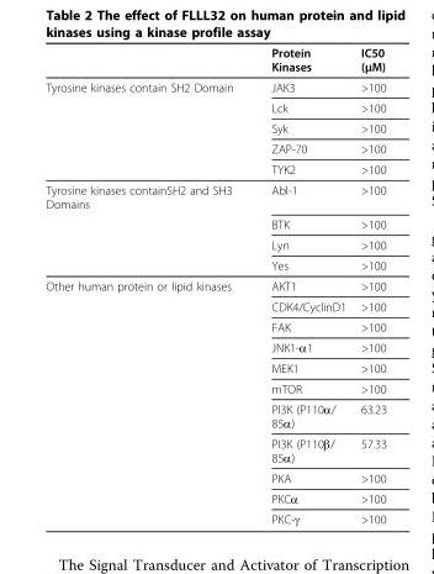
<table><thead><tr><td></td><td>Protein Kinases</td><td>IC50 (μM)</td></tr></thead><tbody><tr><td rowspan="5">Tyrosine kinases contain SH2 Domain</td><td>JAK3</td><td>&gt;100</td></tr><tr><td>Lck</td><td>&gt;100</td></tr><tr><td>Syk</td><td>&gt;100</td></tr><tr><td>ZAP-70</td><td>&gt;100</td></tr><tr><td>TYK2</td><td>&gt;100</td></tr><tr><td rowspan="4">Tyrosine kinases containSH2 and SH3 Domains</td><td>Abl-1</td><td>&gt;100</td></tr><tr><td>BTK</td><td>&gt;100</td></tr><tr><td>Lyn</td><td>&gt;100</td></tr><tr><td>Yes</td><td>&gt;100</td></tr><tr><td rowspan="11">Other human protein or lipid kinases</td><td>AKT1</td><td>&gt;100</td></tr><tr><td>CDK4/CyclinD1</td><td>&gt;100</td></tr><tr><td>FAK</td><td>&gt;100</td></tr><tr><td>JNK1-α1</td><td>&gt;100</td></tr><tr><td>MEK1</td><td>&gt;100</td></tr><tr><td>mTOR</td><td>&gt;100</td></tr><tr><td>PI3K (P110α/ 85α)</td><td>63.23</td></tr><tr><td>PI3K (P110β/ 85α)</td><td>57.33</td></tr><tr><td>PKA</td><td>&gt;100</td></tr><tr><td>PKCα</td><td>&gt;100</td></tr><tr><td>PKC-γ</td><td>&gt;100</td></tr></tbody></table>